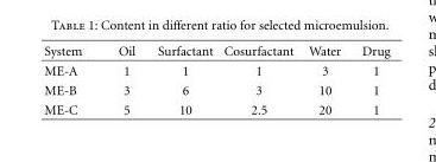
<table><thead><tr><td>System</td><td>Oil</td><td>Surfactant</td><td>Cosurfactant</td><td>Water</td><td>Drug</td></tr></thead><tbody><tr><td>ME-A</td><td>1</td><td>1</td><td>1</td><td>3</td><td>1</td></tr><tr><td>ME-B</td><td>3</td><td>6</td><td>3</td><td>10</td><td>1</td></tr><tr><td>ME-C</td><td>5</td><td>10</td><td>2.5</td><td>20</td><td>1</td></tr></tbody></table>